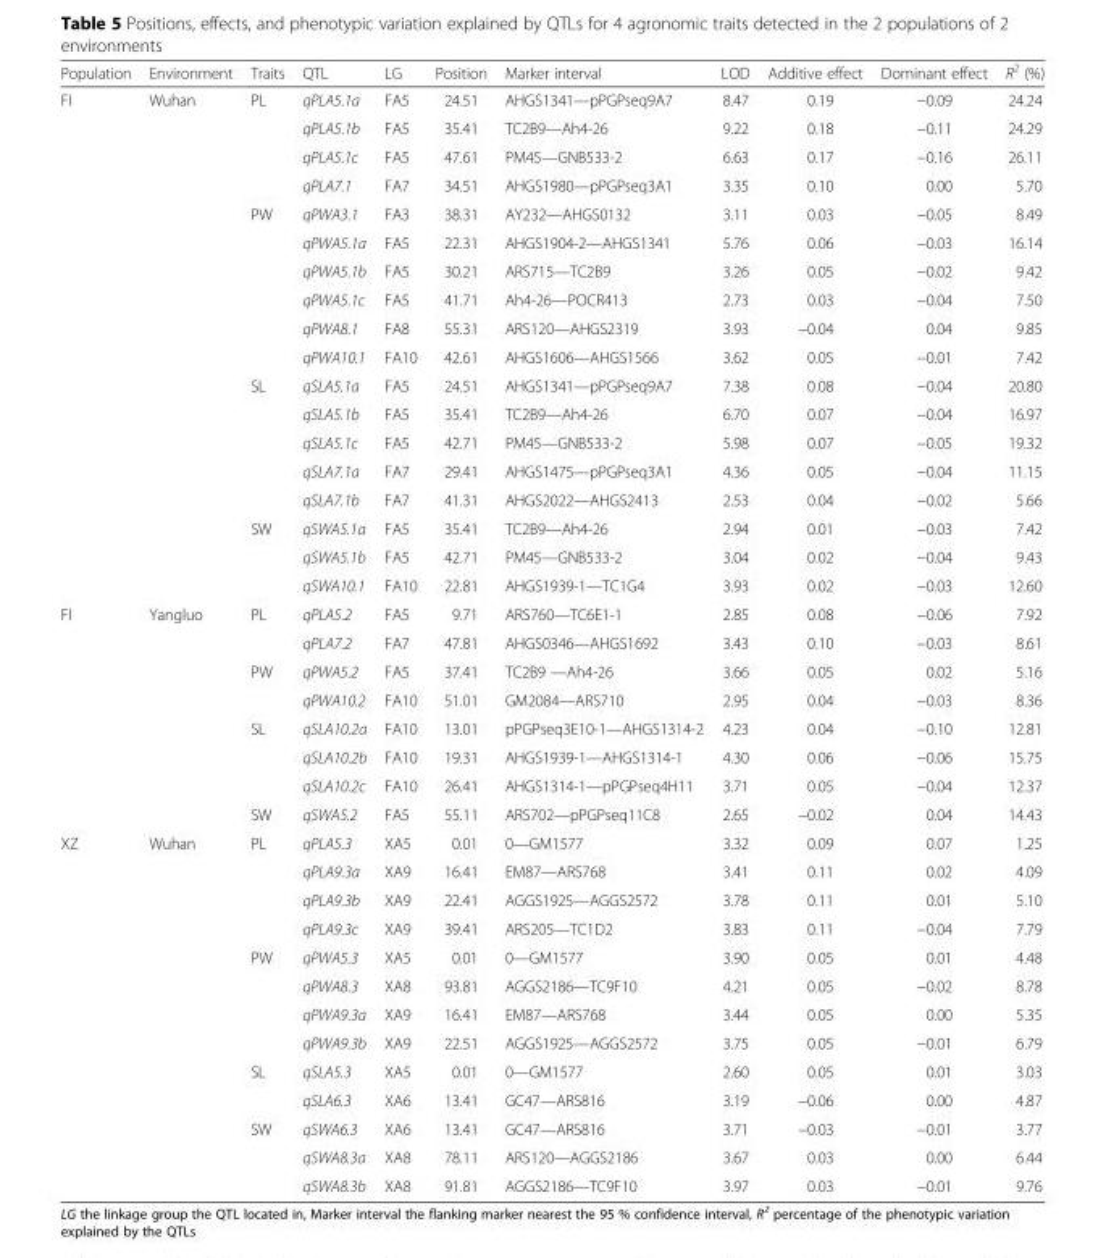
<table><thead><tr><td>Population</td><td>Environment</td><td>Traits</td><td>QTL</td><td>LG</td><td>Position</td><td>Marker interval</td><td>LOD</td><td>Additive effect</td><td>Dominant effect</td><td>R<sup>2</sup> (%)</td></tr></thead><tbody><tr><td rowspan="18">FI</td><td>Wuhan</td><td>PL</td><td>qPLA5.1a</td><td>FA5</td><td>24.51</td><td>AHGS1341—pPGPseq9A7</td><td>8.47</td><td>0.19</td><td>−0.09</td><td>24.24</td></tr><tr><td></td><td></td><td>qPLA5.1b</td><td>FA5</td><td>35.41</td><td>TC2B9—Ah4-26</td><td>9.22</td><td>0.18</td><td>−0.11</td><td>24.29</td></tr><tr><td></td><td></td><td>qPLA5.1c</td><td>FA5</td><td>47.61</td><td>PM45—GNB533-2</td><td>6.63</td><td>0.17</td><td>−0.16</td><td>26.11</td></tr><tr><td></td><td></td><td>qPLA7.1</td><td>FA7</td><td>34.51</td><td>AHGS1980—pPGPseq3A1</td><td>3.35</td><td>0.10</td><td>0.00</td><td>5.70</td></tr><tr><td></td><td>PW</td><td>qPWA3.1</td><td>FA3</td><td>38.31</td><td>AY232—AHGS0132</td><td>3.11</td><td>0.03</td><td>−0.05</td><td>8.49</td></tr><tr><td></td><td></td><td>qPWA5.1a</td><td>FA5</td><td>22.31</td><td>AHGS1904-2—AHGS1341</td><td>5.76</td><td>0.06</td><td>−0.03</td><td>16.14</td></tr><tr><td></td><td></td><td>qPWA5.1b</td><td>FA5</td><td>30.21</td><td>ARS715—TC2B9</td><td>3.26</td><td>0.05</td><td>−0.02</td><td>9.42</td></tr><tr><td></td><td></td><td>qPWA5.1c</td><td>FA5</td><td>41.71</td><td>Ah4-26—POCR413</td><td>2.73</td><td>0.03</td><td>−0.04</td><td>7.50</td></tr><tr><td></td><td></td><td>qPWA8.1</td><td>FA8</td><td>55.31</td><td>ARS120—AHGS2319</td><td>3.93</td><td>−0.04</td><td>0.04</td><td>9.85</td></tr><tr><td></td><td></td><td>qPWA10.1</td><td>FA10</td><td>42.61</td><td>AHGS1606—AHGS1566</td><td>3.62</td><td>0.05</td><td>−0.01</td><td>7.42</td></tr><tr><td></td><td>SL</td><td>qSLA5.1a</td><td>FA5</td><td>24.51</td><td>AHGS1341—pPGPseq9A7</td><td>7.38</td><td>0.08</td><td>−0.04</td><td>20.80</td></tr><tr><td></td><td></td><td>qSLA5.1b</td><td>FA5</td><td>35.41</td><td>TC2B9—Ah4-26</td><td>6.70</td><td>0.07</td><td>−0.04</td><td>16.97</td></tr><tr><td></td><td></td><td>qSLA5.1c</td><td>FA5</td><td>42.71</td><td>PM45—GNB533-2</td><td>5.98</td><td>0.07</td><td>−0.05</td><td>19.32</td></tr><tr><td></td><td></td><td>qSLA7.1a</td><td>FA7</td><td>29.41</td><td>AHGS1475—pPGPseq3A1</td><td>4.36</td><td>0.05</td><td>−0.04</td><td>11.15</td></tr><tr><td></td><td></td><td>qSLA7.1b</td><td>FA7</td><td>41.31</td><td>AHGS2022—AHGS2413</td><td>2.53</td><td>0.04</td><td>−0.02</td><td>5.66</td></tr><tr><td></td><td>SW</td><td>qSWA5.1a</td><td>FA5</td><td>35.41</td><td>TC2B9—Ah4-26</td><td>2.94</td><td>0.01</td><td>−0.03</td><td>7.42</td></tr><tr><td></td><td></td><td>qSWA5.1b</td><td>FA5</td><td>42.71</td><td>PM45—GNB533-2</td><td>3.04</td><td>0.02</td><td>−0.04</td><td>9.43</td></tr><tr><td></td><td></td><td>qSWA10.1</td><td>FA10</td><td>22.81</td><td>AHGS1939-1—TC1G4</td><td>3.93</td><td>0.02</td><td>−0.03</td><td>12.60</td></tr><tr><td rowspan="8">FI</td><td>Yangluo</td><td>PL</td><td>qPLA5.2</td><td>FA5</td><td>9.71</td><td>ARS760—TC6E1-1</td><td>2.85</td><td>0.08</td><td>−0.06</td><td>7.92</td></tr><tr><td></td><td></td><td>qPLA7.2</td><td>FA7</td><td>47.81</td><td>AHGS0346—AHGS1692</td><td>3.43</td><td>0.10</td><td>−0.03</td><td>8.61</td></tr><tr><td></td><td>PW</td><td>qPWA5.2</td><td>FA5</td><td>37.41</td><td>TC2B9 —Ah4-26</td><td>3.66</td><td>0.05</td><td>0.02</td><td>5.16</td></tr><tr><td></td><td></td><td>qPWA10.2</td><td>FA10</td><td>51.01</td><td>GM2084—ARS710</td><td>2.95</td><td>0.04</td><td>−0.03</td><td>8.36</td></tr><tr><td></td><td>SL</td><td>qSLA10.2a</td><td>FA10</td><td>13.01</td><td>pPGPseq3E10-1—AHGS1314-2</td><td>4.23</td><td>0.04</td><td>−0.10</td><td>12.81</td></tr><tr><td></td><td></td><td>qSLA10.2b</td><td>FA10</td><td>19.31</td><td>AHGS1939-1—AHGS1314-1</td><td>4.30</td><td>0.06</td><td>−0.06</td><td>15.75</td></tr><tr><td></td><td></td><td>qSLA10.2c</td><td>FA10</td><td>26.41</td><td>AHGS1314-1—pPGPseq4H11</td><td>3.71</td><td>0.05</td><td>−0.04</td><td>12.37</td></tr><tr><td></td><td>SW</td><td>qSWA5.2</td><td>FA5</td><td>55.11</td><td>ARS702—pPGPseq11C8</td><td>2.65</td><td>−0.02</td><td>0.04</td><td>14.43</td></tr><tr><td rowspan="13">XZ</td><td>Wuhan</td><td>PL</td><td>qPLA5.3</td><td>XA5</td><td>0.01</td><td>0—GM1577</td><td>3.32</td><td>0.09</td><td>0.07</td><td>1.25</td></tr><tr><td></td><td></td><td>qPLA9.3a</td><td>XA9</td><td>16.41</td><td>EM87—ARS768</td><td>3.41</td><td>0.11</td><td>0.02</td><td>4.09</td></tr><tr><td></td><td></td><td>qPLA9.3b</td><td>XA9</td><td>22.41</td><td>AGGS1925—AGGS2572</td><td>3.78</td><td>0.11</td><td>0.01</td><td>5.10</td></tr><tr><td></td><td></td><td>qPLA9.3c</td><td>XA9</td><td>39.41</td><td>ARS205—TC1D2</td><td>3.83</td><td>0.11</td><td>−0.04</td><td>7.79</td></tr><tr><td></td><td>PW</td><td>qPWA5.3</td><td>XA5</td><td>0.01</td><td>0—GM1577</td><td>3.90</td><td>0.05</td><td>0.01</td><td>4.48</td></tr><tr><td></td><td></td><td>qPWA8.3</td><td>XA8</td><td>93.81</td><td>AGGS2186—TC9F10</td><td>4.21</td><td>0.05</td><td>−0.02</td><td>8.78</td></tr><tr><td></td><td></td><td>qPWA9.3a</td><td>XA9</td><td>16.41</td><td>EM87—ARS768</td><td>3.44</td><td>0.05</td><td>0.00</td><td>5.35</td></tr><tr><td></td><td></td><td>qPWA9.3b</td><td>XA9</td><td>22.51</td><td>AGGS1925—AGGS2572</td><td>3.75</td><td>0.05</td><td>−0.01</td><td>6.79</td></tr><tr><td></td><td>SL</td><td>qSLA5.3</td><td>XA5</td><td>0.01</td><td>0—GM1577</td><td>2.60</td><td>0.05</td><td>0.01</td><td>3.03</td></tr><tr><td></td><td></td><td>qSLA6.3</td><td>XA6</td><td>13.41</td><td>GC47—ARS816</td><td>3.19</td><td>−0.06</td><td>0.00</td><td>4.87</td></tr><tr><td></td><td>SW</td><td>qSWA6.3</td><td>XA6</td><td>13.41</td><td>GC47—ARS816</td><td>3.71</td><td>−0.03</td><td>−0.01</td><td>3.77</td></tr><tr><td></td><td></td><td>qSWA8.3a</td><td>XA8</td><td>78.11</td><td>ARS120—AGGS2186</td><td>3.67</td><td>0.03</td><td>0.00</td><td>6.44</td></tr><tr><td></td><td></td><td>qSWA8.3b</td><td>XA8</td><td>91.81</td><td>AGGS2186—TC9F10</td><td>3.97</td><td>0.03</td><td>−0.01</td><td>9.76</td></tr></tbody></table>